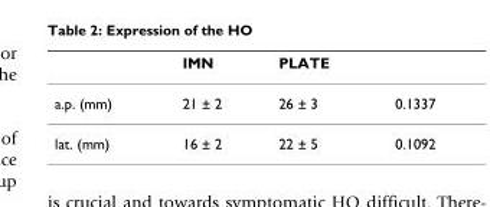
<table><thead><tr><td></td><td>IMN</td><td>PLATE</td><td></td></tr></thead><tbody><tr><td>a.p. (mm)</td><td>21 ± 2</td><td>26 ± 3</td><td>0.1337</td></tr><tr><td>lat. (mm)</td><td>16 ± 2</td><td>22 ± 5</td><td>0.1092</td></tr></tbody></table>